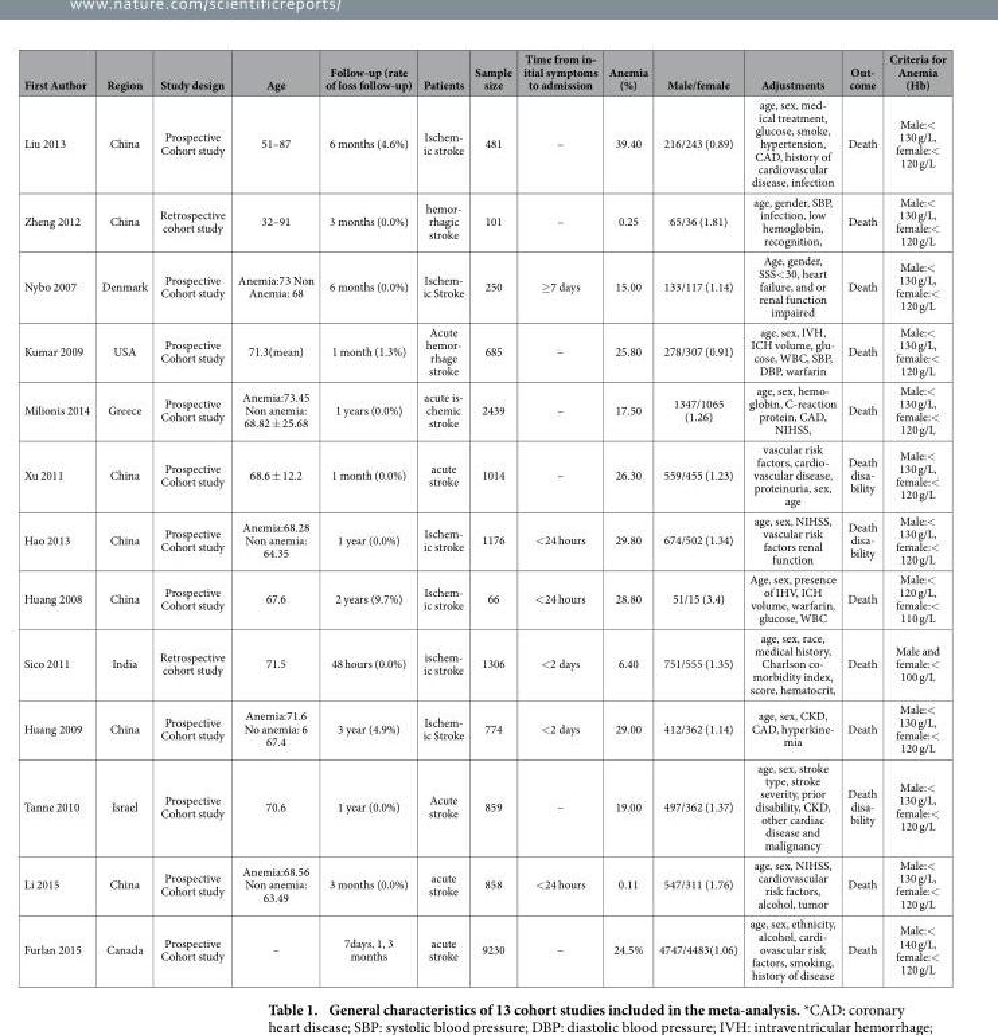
<table><thead><tr><td>First Author</td><td>Region</td><td>Study design</td><td>Age</td><td>Follow-up (rate of loss follow-up)</td><td>Patients</td><td>Sample size</td><td>Time from in- itial symptoms to admission</td><td>Anemia (%)</td><td>Male/female</td><td>Adjustments</td><td>Out- come</td><td>Criteria for Anemia (Hb)</td></tr></thead><tbody><tr><td>Liu 2013</td><td>China</td><td>Prospective Cohort study</td><td>51–87</td><td>6 months (4.6%)</td><td>Ischem- ic stroke</td><td>481</td><td>–</td><td>39.40</td><td>216/243 (0.89)</td><td>age, sex, med- ical treatment, glucose, smoke, hypertension, CAD, history of cardiovascular disease, infection</td><td>Death</td><td>Male:&lt; 130 g/L, female:&lt; 120 g/L</td></tr><tr><td>Zheng 2012</td><td>China</td><td>Retrospective cohort study</td><td>32–91</td><td>3 months (0.0%)</td><td>hemor- rhagic stroke</td><td>101</td><td>–</td><td>0.25</td><td>65/36 (1.81)</td><td>age, gender, SBP, infection, low hemoglobin, recognition,</td><td>Death</td><td>Male:&lt; 130 g/L, female:&lt; 120 g/L</td></tr><tr><td>Nybo 2007</td><td>Denmark</td><td>Prospective Cohort study</td><td>Anemia:73 Non Anemia: 68</td><td>6 months (0.0%)</td><td>Ischem- ic Stroke</td><td>250</td><td>≥ 7 days</td><td>15.00</td><td>133/117 (1.14)</td><td>Age, gender, SSS&lt; 30, heart failure, and or renal function impaired</td><td>Death</td><td>Male:&lt; 130 g/L, female:&lt; 120 g/L</td></tr><tr><td>Kumar 2009</td><td>USA</td><td>Prospective Cohort study</td><td>71.3(mean)</td><td>1 month (1.3%)</td><td>Acute hemor- rhage stroke</td><td>685</td><td>–</td><td>25.80</td><td>278/307 (0.91)</td><td>age, sex, IVH, ICH volume, glu- cose, WBC, SBP, DBP, warfarin</td><td>Death</td><td>Male:&lt; 130 g/L, female:&lt; 120 g/L</td></tr><tr><td>Milionis 2014</td><td>Greece</td><td>Prospective Cohort study</td><td>Anemia:73.45 Non anemia: 68.82 ± 25.68</td><td>1 years (0.0%)</td><td>acute is- chemic stroke</td><td>2439</td><td>–</td><td>17.50</td><td>1347/1065 (1.26)</td><td>age, sex, hemo- globin, C-reaction protein, CAD, NIHSS,</td><td>Death</td><td>Male:&lt; 130 g/L, female:&lt; 120 g/L</td></tr><tr><td>Xu 2011</td><td>China</td><td>Prospective Cohort study</td><td>68.6 ± 12.2</td><td>1 month (0.0%)</td><td>acute stroke</td><td>1014</td><td>–</td><td>26.30</td><td>559/455 (1.23)</td><td>vascular risk factors, cardio- vascular disease, proteinuria, sex, age</td><td>Death disa- bility</td><td>Male:&lt; 130 g/L, female:&lt; 120 g/L</td></tr><tr><td>Hao 2013</td><td>China</td><td>Prospective Cohort study</td><td>Anemia:68.28 Non anemia: 64.35</td><td>1 year (0.0%)</td><td>Ischem- ic stroke</td><td>1176</td><td>&lt; 24 hours</td><td>29.80</td><td>674/502 (1.34)</td><td>age, sex, NIHSS, vascular risk factors renal function</td><td>Death disa- bility</td><td>Male:&lt; 130 g/L, female:&lt; 120 g/L</td></tr><tr><td>Huang 2008</td><td>China</td><td>Prospective Cohort study</td><td>67.6</td><td>2 years (9.7%)</td><td>Ischem- ic stroke</td><td>66</td><td>&lt; 24 hours</td><td>28.80</td><td>51/15 (3.4)</td><td>Age, sex, presence of IHV, ICH volume, warfarin, glucose, WBC</td><td>Death</td><td>Male:&lt; 120 g/L, female:&lt; 110 g/L</td></tr><tr><td>Sico 2011</td><td>India</td><td>Retrospective cohort study</td><td>71.5</td><td>48 hours (0.0%)</td><td>ischem- ic stroke</td><td>1306</td><td>&lt; 2 days</td><td>6.40</td><td>751/555 (1.35)</td><td>age, sex, race, medical history, Charlson co- morbidity index, score, hematocrit,</td><td>Death</td><td>Male and female:&lt; 100 g/L</td></tr><tr><td>Huang 2009</td><td>China</td><td>Prospective Cohort study</td><td>Anemia:71.6 No anemia: 6 67.4</td><td>3 year (4.9%)</td><td>Ischem- ic Stroke</td><td>774</td><td>&lt; 2 days</td><td>29.00</td><td>412/362 (1.14)</td><td>age, sex, CKD, CAD, hyperkine- mia</td><td>Death</td><td>Male:&lt; 130 g/L, female:&lt; 120 g/L</td></tr><tr><td>Tanne 2010</td><td>Israel</td><td>Prospective Cohort study</td><td>70.6</td><td>1 year (0.0%)</td><td>Acute stroke</td><td>859</td><td>–</td><td>19.00</td><td>497/362 (1.37)</td><td>age, sex, stroke type, stroke severity, prior disability, CKD, other cardiac disease and malignancy</td><td>Death disa- bility</td><td>Male:&lt; 130 g/L, female:&lt; 120 g/L</td></tr><tr><td>Li 2015</td><td>China</td><td>Prospective Cohort study</td><td>Anemia:68.56 Non anemia: 63.49</td><td>3 months (0.0%)</td><td>acute stroke</td><td>858</td><td>&lt; 24 hours</td><td>0.11</td><td>547/311 (1.76)</td><td>age, sex, NIHSS, cardiovascular risk factors, alcohol, tumor</td><td>Death</td><td>Male:&lt; 130 g/L, female:&lt; 120 g/L</td></tr><tr><td>Furlan 2015</td><td>Canada</td><td>Prospective Cohort study</td><td>–</td><td>7days, 1, 3 months</td><td>acute stroke</td><td>9230</td><td>–</td><td>24.5%</td><td>4747/4483(1.06)</td><td>age, sex, ethnicity, alcohol, cardi- ovascular risk factors, smoking, history of disease</td><td>Death</td><td>Male:&lt; 140 g/L, female:&lt; 120 g/L</td></tr></tbody></table>